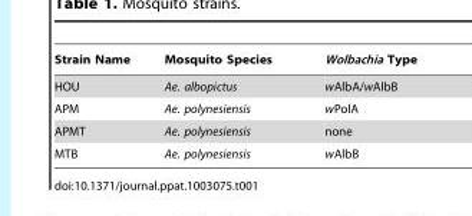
<table><thead><tr><td>Strain Name</td><td>Mosquito Species</td><td>Wolbachia Type</td></tr></thead><tbody><tr><td>HOU</td><td>Ae. albopictus</td><td>wAlbA/wAlbB</td></tr><tr><td>APM</td><td>Ae. polynesiensis</td><td>wPolA</td></tr><tr><td>APMT</td><td>Ae. polynesiensis</td><td>none</td></tr><tr><td>MTB</td><td>Ae. polynesiensis</td><td>wAlbB</td></tr></tbody></table>